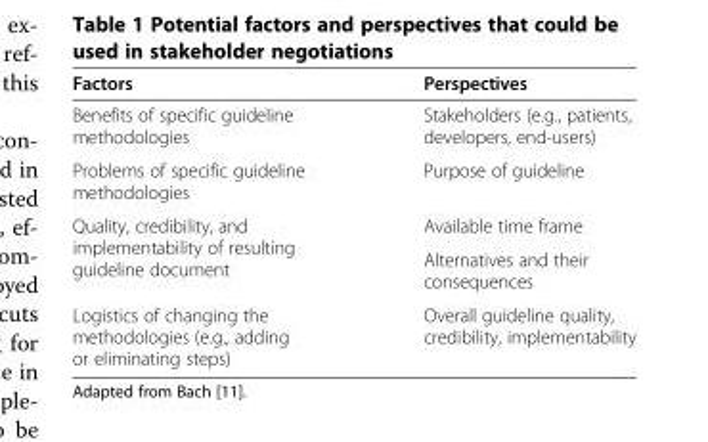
<table><thead><tr><td>Factors</td><td>Perspectives</td></tr></thead><tbody><tr><td>Benefits of specific guideline methodologies</td><td>Stakeholders (e.g., patients, developers, end-users)</td></tr><tr><td>Problems of specific guideline methodologies</td><td>Purpose of guideline</td></tr><tr><td rowspan="2">Quality, credibility, and implementability of resulting guideline document</td><td>Available time frame</td></tr><tr><td>Alternatives and their consequences</td></tr><tr><td>Logistics of changing the methodologies (e.g., adding or eliminating steps)</td><td>Overall guideline quality, credibility, implementability</td></tr></tbody></table>